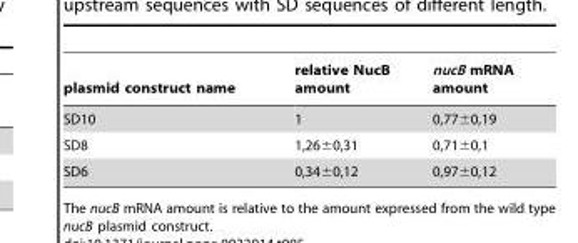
<table><thead><tr><td>plasmid construct name</td><td>relative NucB amount</td><td>nucB mRNA amount</td></tr></thead><tbody><tr><td>SD10</td><td>1</td><td>0,77±0,19</td></tr><tr><td>SD8</td><td>1,26±0,31</td><td>0,71±0,1</td></tr><tr><td>SD6</td><td>0,34±0,12</td><td>0,97±0,12</td></tr></tbody></table>